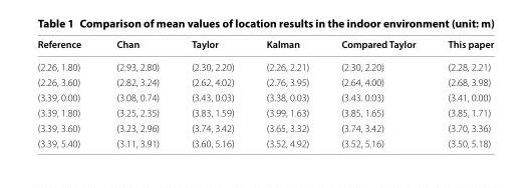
<table><thead><tr><td>Reference</td><td>Chan</td><td>Taylor</td><td>Kalman</td><td>Compared Taylor</td><td>This paper</td></tr></thead><tbody><tr><td>(2.26, 1.80)</td><td>(2.93, 2.80)</td><td>(2.30, 2.20)</td><td>(2.26, 2.21)</td><td>(2.30, 2.20)</td><td>(2.28, 2.21)</td></tr><tr><td>(2.26, 3.60)</td><td>(2.82, 3.24)</td><td>(2.62, 4.02)</td><td>(2.76, 3.95)</td><td>(2.64, 4.00)</td><td>(2.68, 3.98)</td></tr><tr><td>(3.39, 0.00)</td><td>(3.08, 0.74)</td><td>(3.43, 0.03)</td><td>(3.38, 0.03)</td><td>(3.43. 0.03)</td><td>(3.41, 0.00)</td></tr><tr><td>(3.39, 1.80)</td><td>(3.25, 2.35)</td><td>(3.83, 1.59)</td><td>(3.99, 1.63)</td><td>(3.85, 1.65)</td><td>(3.85, 1.71)</td></tr><tr><td>(3.39, 3.60)</td><td>(3.23, 2.96)</td><td>(3.74, 3.42)</td><td>(3.65, 3.32)</td><td>(3.74, 3.42)</td><td>(3.70, 3.36)</td></tr><tr><td>(3.39, 5.40)</td><td>(3.11, 3.91)</td><td>(3.60, 5.16)</td><td>(3.52, 4.92)</td><td>(3.52, 5.16)</td><td>(3.50, 5.18)</td></tr></tbody></table>